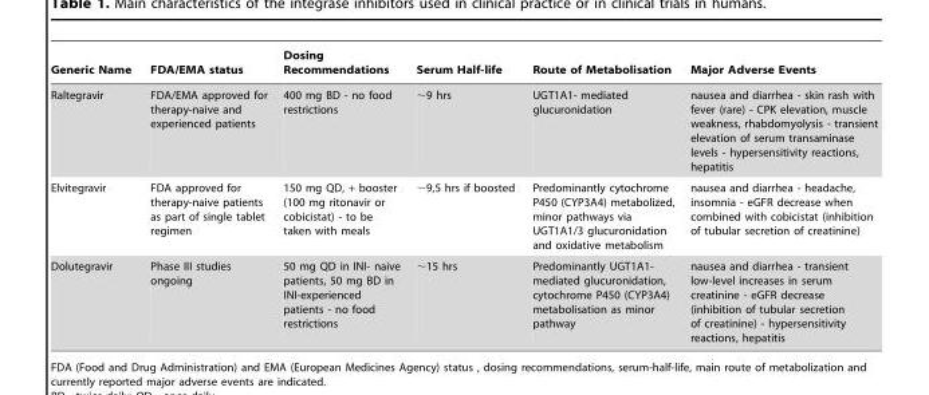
<table><thead><tr><td>Generic Name</td><td>FDA/EMA status</td><td>Dosing Recommendations</td><td>Serum Half-life</td><td>Route of Metabolisation</td><td>Major Adverse Events</td></tr></thead><tbody><tr><td>Raltegravir</td><td>FDA/EMA approved for therapy-naive and experienced patients</td><td>400 mg BD - no food restrictions</td><td>∼9 hrs</td><td>UGT1A1- mediated glucuronidation</td><td>nausea and diarrhea - skin rash with fever (rare) - CPK elevation, muscle weakness, rhabdomyolysis - transient elevation of serum transaminase levels - hypersensitivity reactions, hepatitis</td></tr><tr><td>Elvitegravir</td><td>FDA approved for therapy-naive patients as part of single tablet regimen</td><td>150 mg QD, + booster (100 mg ritonavir or cobicistat) - to be taken with meals</td><td>∼9,5 hrs if boosted</td><td>Predominantly cytochrome P450 (CYP3A4) metabolized, minor pathways via UGT1A1/3 glucuronidation and oxidative metabolism</td><td>nausea and diarrhea - headache, insomnia - eGFR decrease when combined with cobicistat (inhibition of tubular secretion of creatinine)</td></tr><tr><td>Dolutegravir</td><td>Phase III studies ongoing</td><td>50 mg QD in INI- naive patients, 50 mg BD in INI-experienced patients - no food restrictions</td><td>∼15 hrs</td><td>Predominantly UGT1A1- mediated glucuronidation, cytochrome P450 (CYP3A4) metabolisation as minor pathway</td><td>nausea and diarrhea - transient low-level increases in serum creatinine - eGFR decrease (inhibition of tubular secretion of creatinine) - hypersensitivity reactions, hepatitis</td></tr></tbody></table>